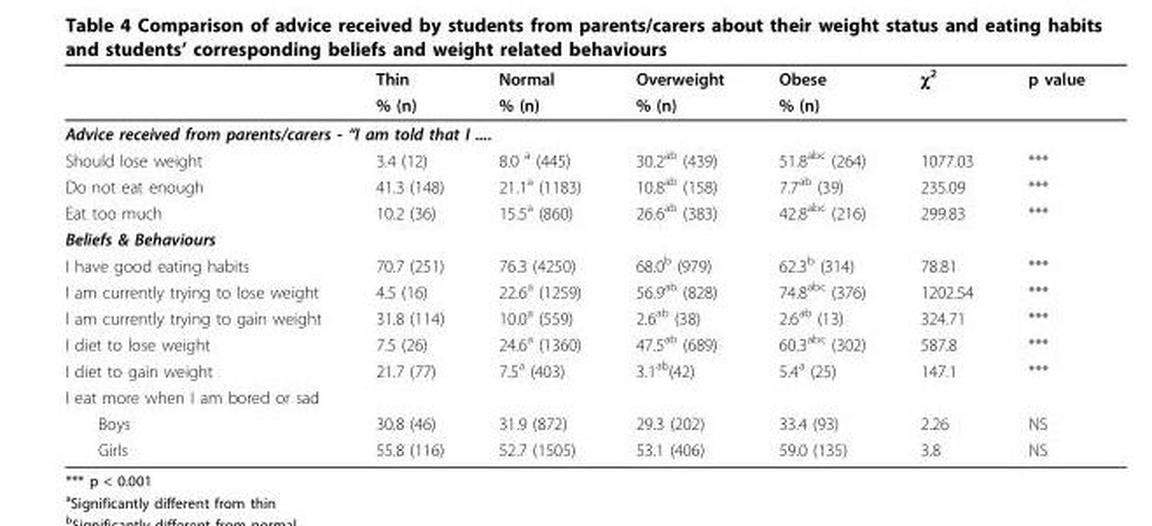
<table><thead><tr><td rowspan="2"></td><td rowspan="2">Thin % (n)</td><td rowspan="2">Normal % (n)</td><td rowspan="2">Overweight % (n)</td><td rowspan="2">Obese % (n)</td><td rowspan="2">χ<sup>2</sup></td><td rowspan="2">p value</td></tr><tr></tr></thead><tbody><tr><td colspan="7">Advice received from parents/carers - “I am told that I ....</td></tr><tr><td>Should lose weight</td><td>3.4 (12)</td><td>8.0 <sup>a</sup> (445)</td><td>30.2<sup>ab</sup> (439)</td><td>51.8<sup>abc</sup> (264)</td><td>1077.03</td><td>***</td></tr><tr><td>Do not eat enough</td><td>41.3 (148)</td><td>21.1<sup>a</sup> (1183)</td><td>10.8<sup>ab</sup> (158)</td><td>7.7<sup>ab</sup> (39)</td><td>235.09</td><td>***</td></tr><tr><td>Eat too much</td><td>10.2 (36)</td><td>15.5<sup>a</sup> (860)</td><td>26.6<sup>ab</sup> (383)</td><td>42.8<sup>abc</sup> (216)</td><td>299.83</td><td>***</td></tr><tr><td colspan="7">Beliefs &amp; Behaviours</td></tr><tr><td>I have good eating habits</td><td>70.7 (251)</td><td>76.3 (4250)</td><td>68.0<sup>b</sup> (979)</td><td>62.3<sup>b</sup> (314)</td><td>78.81</td><td>***</td></tr><tr><td>I am currently trying to lose weight</td><td>4.5 (16)</td><td>22.6<sup>a</sup> (1259)</td><td>56.9<sup>ab</sup> (828)</td><td>74.8<sup>abc</sup> (376)</td><td>1202.54</td><td>***</td></tr><tr><td>I am currently trying to gain weight</td><td>31.8 (114)</td><td>10.0<sup>a</sup> (559)</td><td>2.6<sup>ab</sup> (38)</td><td>2.6<sup>ab</sup> (13)</td><td>324.71</td><td>***</td></tr><tr><td>I diet to lose weight</td><td>7.5 (26)</td><td>24.6<sup>a</sup> (1360)</td><td>47.5<sup>ab</sup> (689)</td><td>60.3<sup>abc</sup> (302)</td><td>587.8</td><td>***</td></tr><tr><td>I diet to gain weight</td><td>21.7 (77)</td><td>7.5<sup>a</sup> (403)</td><td>3.1<sup>ab</sup>(42)</td><td>5.4<sup>a</sup> (25)</td><td>147.1</td><td>***</td></tr><tr><td colspan="7">I eat more when I am bored or sad</td></tr><tr><td>Boys</td><td>30.8 (46)</td><td>31.9 (872)</td><td>29.3 (202)</td><td>33.4 (93)</td><td>2.26</td><td>NS</td></tr><tr><td>Girls</td><td>55.8 (116)</td><td>52.7 (1505)</td><td>53.1 (406)</td><td>59.0 (135)</td><td>3.8</td><td>NS</td></tr></tbody></table>